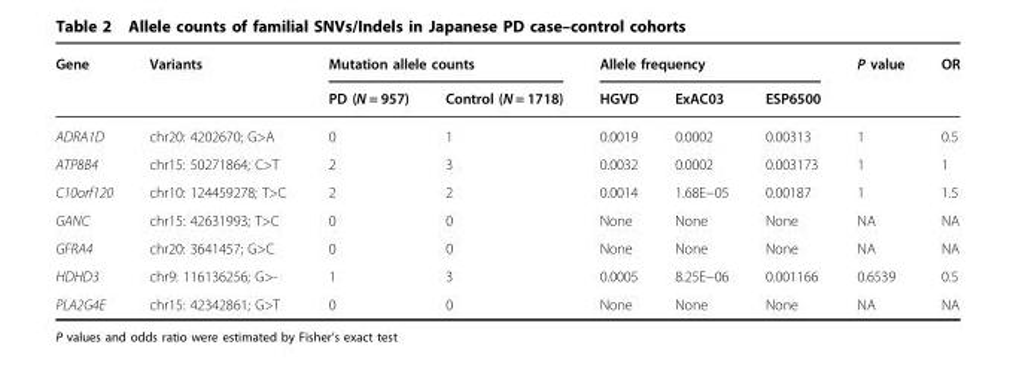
<table><thead><tr><td rowspan="2">Gene</td><td rowspan="2">Variants</td><td colspan="2">Mutation allele counts</td><td colspan="3">Allele frequency</td><td rowspan="2">P value</td><td rowspan="2">OR</td></tr><tr><td>PD (N = 957)</td><td>Control (N = 1718)</td><td>HGVD</td><td>ExAC03</td><td>ESP6500</td></tr></thead><tbody><tr><td>ADRA1D</td><td>chr20: 4202670; G&gt;A</td><td>0</td><td>1</td><td>0.0019</td><td>0.0002</td><td>0.00313</td><td>1</td><td>0.5</td></tr><tr><td>ATP8B4</td><td>chr15: 50271864; C&gt;T</td><td>2</td><td>3</td><td>0.0032</td><td>0.0002</td><td>0.003173</td><td>1</td><td>1</td></tr><tr><td>C10orf120</td><td>chr10: 124459278; T&gt;C</td><td>2</td><td>2</td><td>0.0014</td><td>1.68E−05</td><td>0.00187</td><td>1</td><td>1.5</td></tr><tr><td>GANC</td><td>chr15: 42631993; T&gt;C</td><td>0</td><td>0</td><td>None</td><td>None</td><td>None</td><td>NA</td><td>NA</td></tr><tr><td>GFRA4</td><td>chr20: 3641457; G&gt;C</td><td>0</td><td>0</td><td>None</td><td>None</td><td>None</td><td>NA</td><td>NA</td></tr><tr><td>HDHD3</td><td>chr9: 116136256; G&gt;-</td><td>1</td><td>3</td><td>0.0005</td><td>8.25E−06</td><td>0.001166</td><td>0.6539</td><td>0.5</td></tr><tr><td>PLA2G4E</td><td>chr15: 42342861; G&gt;T</td><td>0</td><td>0</td><td>None</td><td>None</td><td>None</td><td>NA</td><td>NA</td></tr></tbody></table>